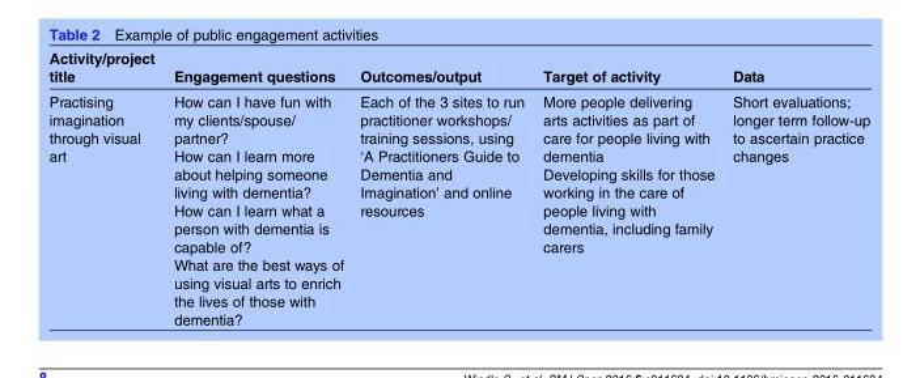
<table><thead><tr><td>Activity/project title</td><td>Engagement questions</td><td>Outcomes/output</td><td>Target of activity</td><td>Data</td></tr></thead><tbody><tr><td>Practising imagination through visual art</td><td>How can I have fun with my clients/spouse/ partner? How can I learn more about helping someone living with dementia? How can I learn what a person with dementia is capable of? What are the best ways of using visual arts to enrich the lives of those with dementia?</td><td>Each of the 3 sites to run practitioner workshops/ training sessions, using ‘A Practitioners Guide to Dementia and Imagination’ and online resources</td><td>More people delivering arts activities as part of care for people living with dementia Developing skills for those working in the care of people living with dementia, including family carers</td><td>Short evaluations; longer term follow-up to ascertain practice changes</td></tr></tbody></table>